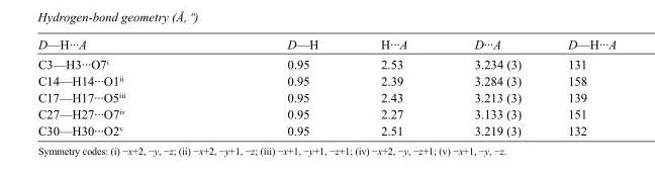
<table><tbody><tr><td>D—H···A</td><td>D—H</td><td>H···A</td><td>D···A</td><td>D—H···A</td></tr><tr><td>C3—H3···O7<sup>i</sup></td><td>0.95</td><td>2.53</td><td>3.234 (3)</td><td>131</td></tr><tr><td>C14—H14···O1<sup>ii</sup></td><td>0.95</td><td>2.39</td><td>3.284 (3)</td><td>158</td></tr><tr><td>C17—H17···O5<sup>iii</sup></td><td>0.95</td><td>2.43</td><td>3.213 (3)</td><td>139</td></tr><tr><td>C27—H27···O7<sup>iv</sup></td><td>0.95</td><td>2.27</td><td>3.133 (3)</td><td>151</td></tr><tr><td>C30—H30···O2<sup>v</sup></td><td>0.95</td><td>2.51</td><td>3.219 (3)</td><td>132</td></tr></tbody></table>